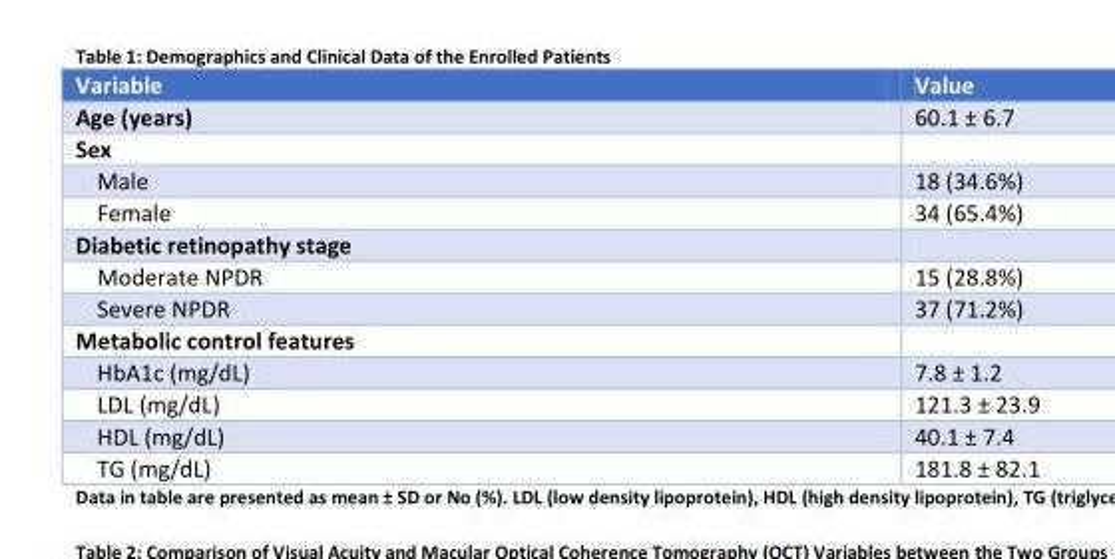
<table><tbody><tr><td>Variable</td><td>Value</td></tr><tr><td>Age (years)</td><td>60.1 ± 6.7</td></tr><tr><td colspan="2">Sex</td></tr><tr><td>Male</td><td>18 (34.6%)</td></tr><tr><td>Female</td><td>34 (65.4%)</td></tr><tr><td colspan="2">Diabetic retinopathy stage</td></tr><tr><td>Moderate NPDR</td><td>15 (28.8%)</td></tr><tr><td>Severe NPDR</td><td>37 (71.2%)</td></tr><tr><td colspan="2">Metabolic control features</td></tr><tr><td>HbA1c (mg/dL)</td><td>7.8 ± 1.2</td></tr><tr><td>LDL (mg/dL)</td><td>121.3 ± 23.9</td></tr><tr><td>HDL (mg/dL)</td><td>40.1 ± 7.4</td></tr><tr><td>TG (mg/dL)</td><td>181.8 ± 82.1</td></tr></tbody></table>